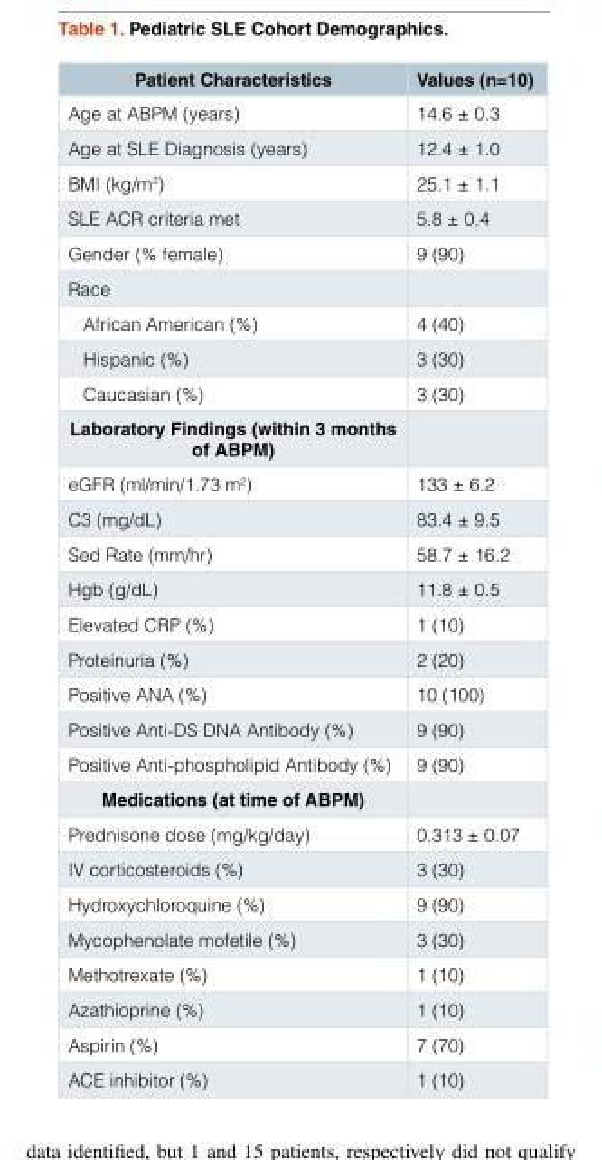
<table><thead><tr><td>Patient Characteristics</td><td>Values (n=10)</td></tr></thead><tbody><tr><td>Age at ABPM (years)</td><td>14.6 ± 0.3</td></tr><tr><td>Age at SLE Diagnosis (years)</td><td>12.4 ± 1.0</td></tr><tr><td>BMI (kg/m<sup>2</sup>)</td><td>25.1 ± 1.1</td></tr><tr><td>SLE ACR criteria met</td><td>5.8 ± 0.4</td></tr><tr><td>Gender (% female)</td><td>9 (90)</td></tr><tr><td colspan="2">Race</td></tr><tr><td>African American (%)</td><td>4 (40)</td></tr><tr><td>Hispanic (%)</td><td>3 (30)</td></tr><tr><td>Caucasian (%)</td><td>3 (30)</td></tr><tr><td colspan="2">Laboratory Findings (within 3 months of ABPM)</td></tr><tr><td>eGFR (ml/min/1.73 m<sup>2</sup>)</td><td>133 ± 6.2</td></tr><tr><td>C3 (mg/dL)</td><td>83.4 ± 9.5</td></tr><tr><td>Sed Rate (mm/hr)</td><td>58.7 ± 16.2</td></tr><tr><td>Hgb (g/dL)</td><td>11.8 ± 0.5</td></tr><tr><td>Elevated CRP (%)</td><td>1 (10)</td></tr><tr><td>Proteinuria (%)</td><td>2 (20)</td></tr><tr><td>Positive ANA (%)</td><td>10 (100)</td></tr><tr><td>Positive Anti-DS DNA Antibody (%)</td><td>9 (90)</td></tr><tr><td>Positive Anti-phospholipid Antibody (%)</td><td>9 (90)</td></tr><tr><td colspan="2">Medications (at time of ABPM)</td></tr><tr><td>Prednisone dose (mg/kg/day)</td><td>0.313 ± 0.07</td></tr><tr><td>IV corticosteroids (%)</td><td>3 (30)</td></tr><tr><td>Hydroxychloroquine (%)</td><td>9 (90)</td></tr><tr><td>Mycophenolate mofetile (%)</td><td>3 (30)</td></tr><tr><td>Methotrexate (%)</td><td>1 (10)</td></tr><tr><td>Azathioprine (%)</td><td>1 (10)</td></tr><tr><td>Aspirin (%)</td><td>7 (70)</td></tr><tr><td>ACE inhibitor (%)</td><td>1 (10)</td></tr></tbody></table>